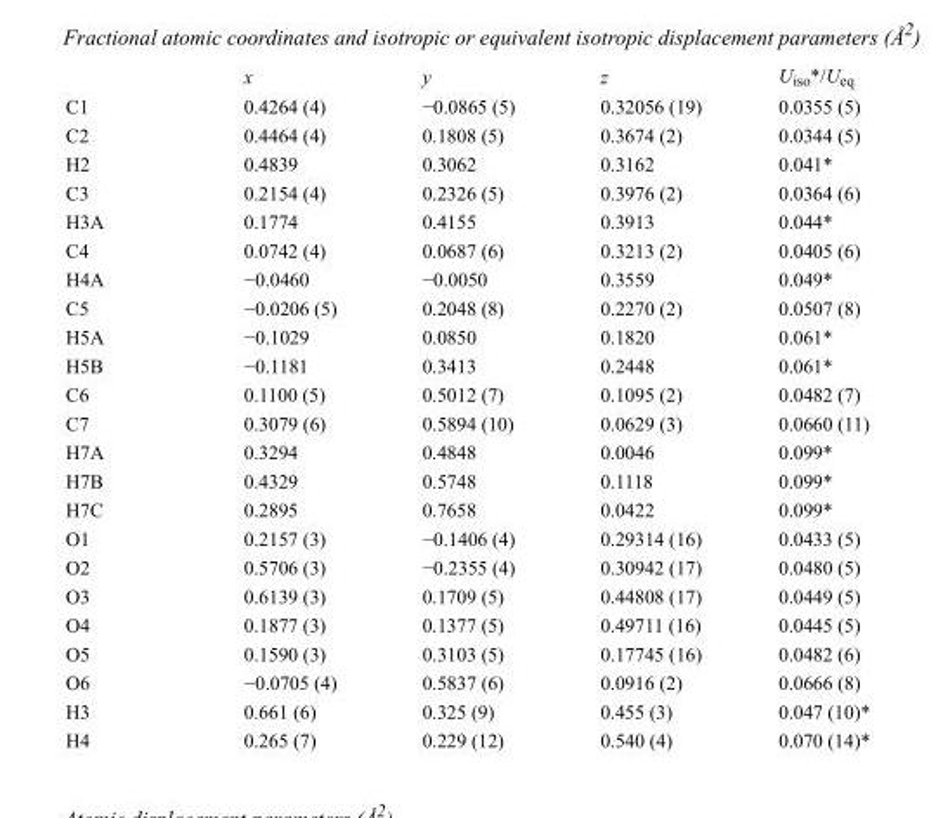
<table><thead><tr><td></td><td>x</td><td>y</td><td>z</td><td>U<sub>iso</sub>*/U<sub>eq</sub></td></tr></thead><tbody><tr><td>C1</td><td>0.4264 (4)</td><td>−0.0865 (5)</td><td>0.32056 (19)</td><td>0.0355 (5)</td></tr><tr><td>C2</td><td>0.4464 (4)</td><td>0.1808 (5)</td><td>0.3674 (2)</td><td>0.0344 (5)</td></tr><tr><td>H2</td><td>0.4839</td><td>0.3062</td><td>0.3162</td><td>0.041*</td></tr><tr><td>C3</td><td>0.2154 (4)</td><td>0.2326 (5)</td><td>0.3976 (2)</td><td>0.0364 (6)</td></tr><tr><td>H3A</td><td>0.1774</td><td>0.4155</td><td>0.3913</td><td>0.044*</td></tr><tr><td>C4</td><td>0.0742 (4)</td><td>0.0687 (6)</td><td>0.3213 (2)</td><td>0.0405 (6)</td></tr><tr><td>H4A</td><td>−0.0460</td><td>−0.0050</td><td>0.3559</td><td>0.049*</td></tr><tr><td>C5</td><td>−0.0206 (5)</td><td>0.2048 (8)</td><td>0.2270 (2)</td><td>0.0507 (8)</td></tr><tr><td>H5A</td><td>−0.1029</td><td>0.0850</td><td>0.1820</td><td>0.061*</td></tr><tr><td>H5B</td><td>−0.1181</td><td>0.3413</td><td>0.2448</td><td>0.061*</td></tr><tr><td>C6</td><td>0.1100 (5)</td><td>0.5012 (7)</td><td>0.1095 (2)</td><td>0.0482 (7)</td></tr><tr><td>C7</td><td>0.3079 (6)</td><td>0.5894 (10)</td><td>0.0629 (3)</td><td>0.0660 (11)</td></tr><tr><td>H7A</td><td>0.3294</td><td>0.4848</td><td>0.0046</td><td>0.099*</td></tr><tr><td>H7B</td><td>0.4329</td><td>0.5748</td><td>0.1118</td><td>0.099*</td></tr><tr><td>H7C</td><td>0.2895</td><td>0.7658</td><td>0.0422</td><td>0.099*</td></tr><tr><td>O1</td><td>0.2157 (3)</td><td>−0.1406 (4)</td><td>0.29314 (16)</td><td>0.0433 (5)</td></tr><tr><td>O2</td><td>0.5706 (3)</td><td>−0.2355 (4)</td><td>0.30942 (17)</td><td>0.0480 (5)</td></tr><tr><td>O3</td><td>0.6139 (3)</td><td>0.1709 (5)</td><td>0.44808 (17)</td><td>0.0449 (5)</td></tr><tr><td>O4</td><td>0.1877 (3)</td><td>0.1377 (5)</td><td>0.49711 (16)</td><td>0.0445 (5)</td></tr><tr><td>O5</td><td>0.1590 (3)</td><td>0.3103 (5)</td><td>0.17745 (16)</td><td>0.0482 (6)</td></tr><tr><td>O6</td><td>−0.0705 (4)</td><td>0.5837 (6)</td><td>0.0916 (2)</td><td>0.0666 (8)</td></tr><tr><td>H3</td><td>0.661 (6)</td><td>0.325 (9)</td><td>0.455 (3)</td><td>0.047 (10)*</td></tr><tr><td>H4</td><td>0.265 (7)</td><td>0.229 (12)</td><td>0.540 (4)</td><td>0.070 (14)*</td></tr></tbody></table>